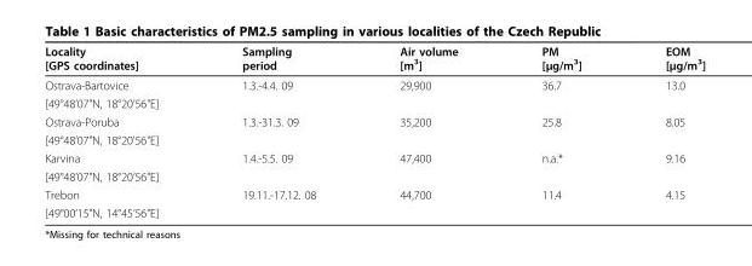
<table><thead><tr><td>Locality [GPS coordinates]</td><td>Sampling period</td><td>Air volume [m<sup>3</sup>]</td><td>PM [μg/m<sup>3</sup>]</td><td>EOM [μg/m<sup>3</sup>]</td></tr></thead><tbody><tr><td>Ostrava-Bartovice</td><td>1.3.-4.4. 09</td><td>29,900</td><td>36.7</td><td>13.0</td></tr><tr><td colspan="5">[49°48’07&quot;N, 18°20’56&quot;E]</td></tr><tr><td>Ostrava-Poruba</td><td>1.3.-31.3. 09</td><td>35,200</td><td>25.8</td><td>8.05</td></tr><tr><td colspan="5">[49°48’07&quot;N, 18°20’56&quot;E]</td></tr><tr><td>Karvina</td><td>1.4.-5.5. 09</td><td>47,400</td><td>n.a.*</td><td>9.16</td></tr><tr><td colspan="5">[49°48’07&quot;N, 18°20’56&quot;E]</td></tr><tr><td>Trebon</td><td>19.11.-17.12. 08</td><td>44,700</td><td>11.4</td><td>4.15</td></tr><tr><td>[49°00’15&quot;N, 14°45’56&quot;E]</td><td></td><td></td><td></td><td></td></tr></tbody></table>